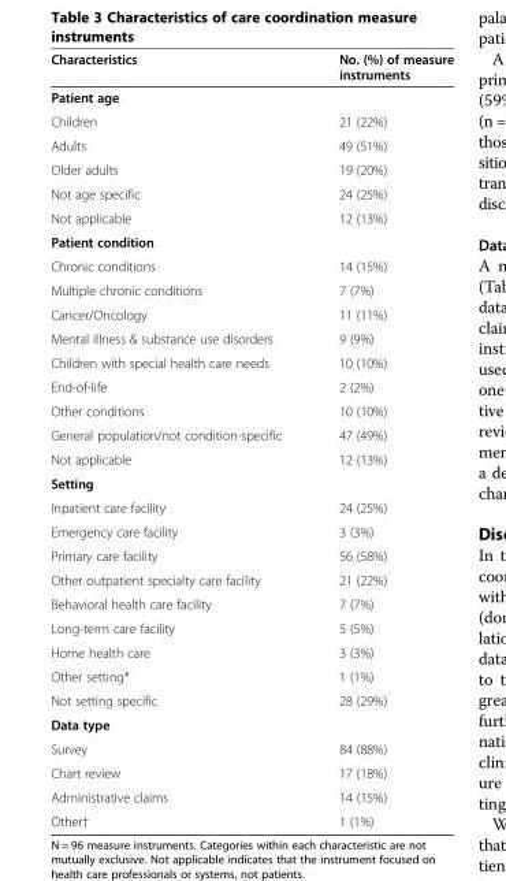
<table><thead><tr><td>Characteristics</td><td>No. (%) of measure instruments</td></tr></thead><tbody><tr><td colspan="2">Patient age</td></tr><tr><td>Children</td><td>21 (22%)</td></tr><tr><td>Adults</td><td>49 (51%)</td></tr><tr><td>Older adults</td><td>19 (20%)</td></tr><tr><td>Not age specific</td><td>24 (25%)</td></tr><tr><td>Not applicable</td><td>12 (13%)</td></tr><tr><td colspan="2">Patient condition</td></tr><tr><td>Chronic conditions</td><td>14 (15%)</td></tr><tr><td>Multiple chronic conditions</td><td>7 (7%)</td></tr><tr><td>Cancer/Oncology</td><td>11 (11%)</td></tr><tr><td>Mental illness &amp; substance use disorders</td><td>9 (9%)</td></tr><tr><td>Children with special health care needs</td><td>10 (10%)</td></tr><tr><td>End-of-life</td><td>2 (2%)</td></tr><tr><td>Other conditions</td><td>10 (10%)</td></tr><tr><td>General population/not condition-specific</td><td>47 (49%)</td></tr><tr><td>Not applicable</td><td>12 (13%)</td></tr><tr><td colspan="2">Setting</td></tr><tr><td>Inpatient care facility</td><td>24 (25%)</td></tr><tr><td>Emergency care facility</td><td>3 (3%)</td></tr><tr><td>Primary care facility</td><td>56 (58%)</td></tr><tr><td>Other outpatient specialty care facility</td><td>21 (22%)</td></tr><tr><td>Behavioral health care facility</td><td>7 (7%)</td></tr><tr><td>Long-term care facility</td><td>5 (5%)</td></tr><tr><td>Home health care</td><td>3 (3%)</td></tr><tr><td>Other setting*</td><td>1 (1%)</td></tr><tr><td>Not setting specific</td><td>28 (29%)</td></tr><tr><td colspan="2">Data type</td></tr><tr><td>Survey</td><td>84 (88%)</td></tr><tr><td>Chart review</td><td>17 (18%)</td></tr><tr><td>Administrative claims</td><td>14 (15%)</td></tr><tr><td>Other†</td><td>1 (1%)</td></tr></tbody></table>